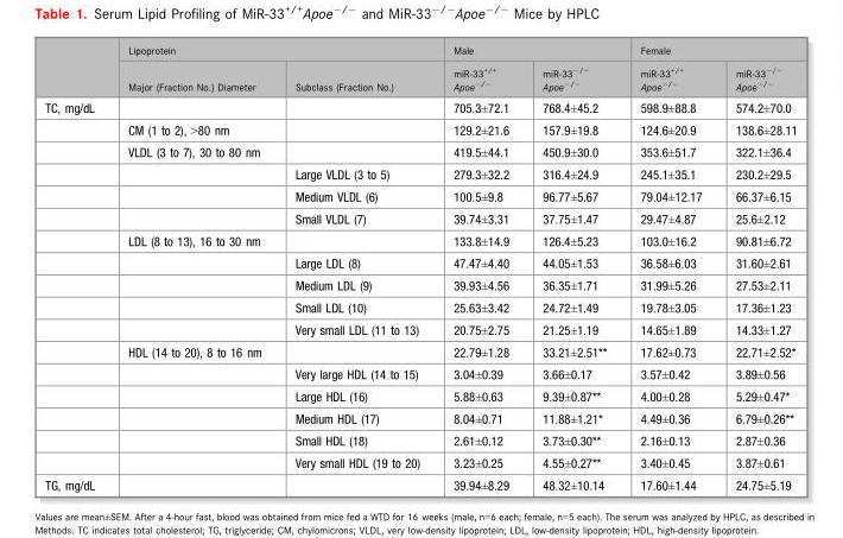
<table><thead><tr><td rowspan="2"></td><td colspan="2">Lipoprotein</td><td colspan="2">Male</td><td colspan="2">Female</td></tr><tr><td>Major (Fraction No.) Diameter</td><td>Subclass (Fraction No.)</td><td>miR-33<sup>+/+</sup> Apoe<sup>−/−</sup></td><td>miR-33<sup>−/−</sup> Apoe<sup>−/−</sup></td><td>miR-33<sup>+/+</sup> Apoe<sup>−/−</sup></td><td>miR-33<sup>−/−</sup> Apoe<sup>−/−</sup></td></tr></thead><tbody><tr><td rowspan="17">TC, mg/dL</td><td></td><td></td><td>705.3±72.1</td><td>768.4±45.2</td><td>598.9±88.8</td><td>574.2±70.0</td></tr><tr><td>CM (1 to 2), &gt;80 nm</td><td></td><td>129.2±21.6</td><td>157.9±19.8</td><td>124.6±20.9</td><td>138.6±28.11</td></tr><tr><td>VLDL (3 to 7), 30 to 80 nm</td><td></td><td>419.5±44.1</td><td>450.9±30.0</td><td>353.6±51.7</td><td>322.1±36.4</td></tr><tr><td></td><td>Large VLDL (3 to 5)</td><td>279.3±32.2</td><td>316.4±24.9</td><td>245.1±35.1</td><td>230.2±29.5</td></tr><tr><td></td><td>Medium VLDL (6)</td><td>100.5±9.8</td><td>96.77±5.67</td><td>79.04±12.17</td><td>66.37±6.15</td></tr><tr><td></td><td>Small VLDL (7)</td><td>39.74±3.31</td><td>37.75±1.47</td><td>29.47±4.87</td><td>25.6±2.12</td></tr><tr><td>LDL (8 to 13), 16 to 30 nm</td><td></td><td>133.8±14.9</td><td>126.4±5.23</td><td>103.0±16.2</td><td>90.81±6.72</td></tr><tr><td></td><td>Large LDL (8)</td><td>47.47±4.40</td><td>44.05±1.53</td><td>36.58±6.03</td><td>31.60±2.61</td></tr><tr><td></td><td>Medium LDL (9)</td><td>39.93±4.56</td><td>36.35±1.71</td><td>31.99±5.26</td><td>27.53±2.11</td></tr><tr><td></td><td>Small LDL (10)</td><td>25.63±3.42</td><td>24.72±1.49</td><td>19.78±3.05</td><td>17.36±1.23</td></tr><tr><td></td><td>Very small LDL (11 to 13)</td><td>20.75±2.75</td><td>21.25±1.19</td><td>14.65±1.89</td><td>14.33±1.27</td></tr><tr><td>HDL (14 to 20), 8 to 16 nm</td><td></td><td>22.79±1.28</td><td>33.21±2.51**</td><td>17.62±0.73</td><td>22.71±2.52*</td></tr><tr><td></td><td>Very large HDL (14 to 15)</td><td>3.04±0.39</td><td>3.66±0.17</td><td>3.57±0.42</td><td>3.89±0.56</td></tr><tr><td></td><td>Large HDL (16)</td><td>5.88±0.63</td><td>9.39±0.87**</td><td>4.00±0.28</td><td>5.29±0.47*</td></tr><tr><td></td><td>Medium HDL (17)</td><td>8.04±0.71</td><td>11.88±1.21*</td><td>4.49±0.36</td><td>6.79±0.26**</td></tr><tr><td></td><td>Small HDL (18)</td><td>2.61±0.12</td><td>3.73±0.30**</td><td>2.16±0.13</td><td>2.87±0.36</td></tr><tr><td></td><td>Very small HDL (19 to 20)</td><td>3.23±0.25</td><td>4.55±0.27**</td><td>3.40±0.45</td><td>3.87±0.61</td></tr><tr><td>TG, mg/dL</td><td></td><td></td><td>39.94±8.29</td><td>48.32±10.14</td><td>17.60±1.44</td><td>24.75±5.19</td></tr></tbody></table>